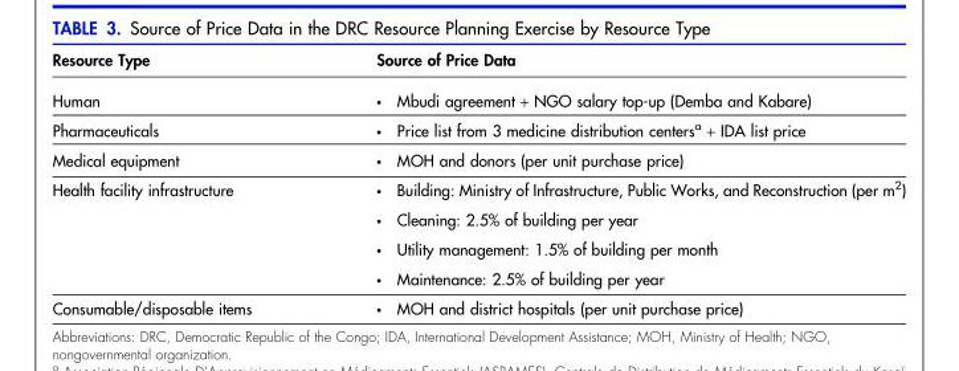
<table><thead><tr><td>Resource Type</td><td>Source of Price Data</td></tr></thead><tbody><tr><td>Human</td><td>• Mbudi agreement + NGO salary top-up (Demba and Kabare)</td></tr><tr><td>Pharmaceuticals</td><td>• Price list from 3 medicine distribution centers<sup>a</sup> + IDA list price</td></tr><tr><td>Medical equipment</td><td>• MOH and donors (per unit purchase price)</td></tr><tr><td rowspan="4">Health facility infrastructure</td><td>• Building: Ministry of Infrastructure, Public Works, and Reconstruction (per m<sup>2</sup>)</td></tr><tr><td>• Cleaning: 2.5% of building per year</td></tr><tr><td>• Utility management: 1.5% of building per month</td></tr><tr><td>• Maintenance: 2.5% of building per year</td></tr><tr><td>Consumable/disposable items</td><td>• MOH and district hospitals (per unit purchase price)</td></tr></tbody></table>